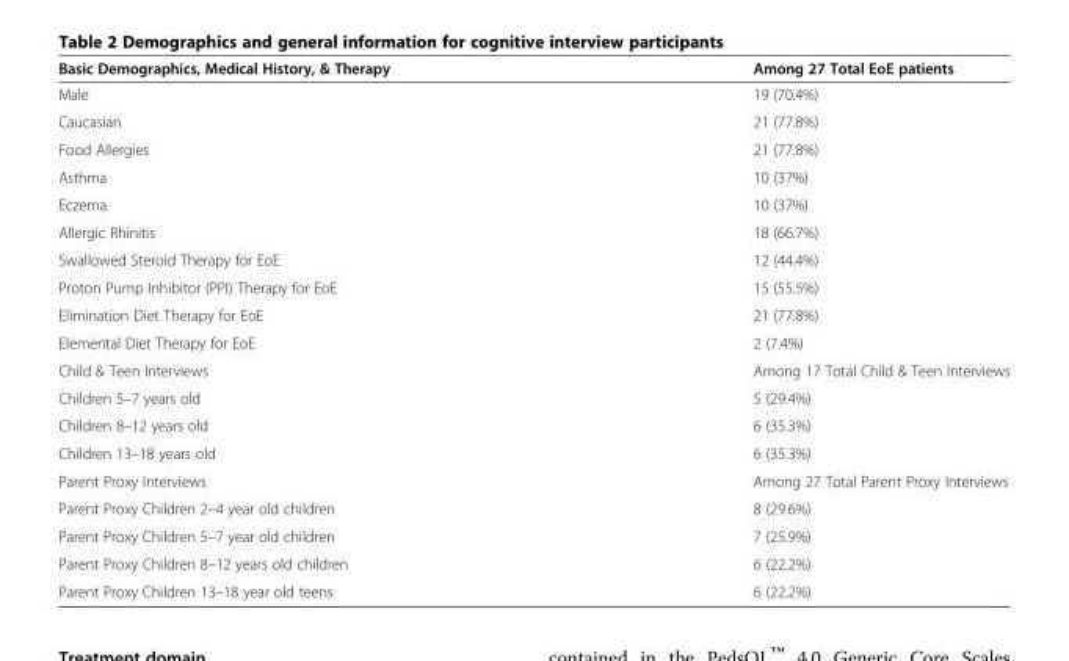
<table><thead><tr><td>Basic Demographics, Medical History, &amp; Therapy</td><td>Among 27 Total EoE patients</td></tr></thead><tbody><tr><td>Male</td><td>19 (70.4%)</td></tr><tr><td>Caucasian</td><td>21 (77.8%)</td></tr><tr><td>Food Allergies</td><td>21 (77.8%)</td></tr><tr><td>Asthma</td><td>10 (37%)</td></tr><tr><td>Eczema</td><td>10 (37%)</td></tr><tr><td>Allergic Rhinitis</td><td>18 (66.7%)</td></tr><tr><td>Swallowed Steroid Therapy for EoE</td><td>12 (44.4%)</td></tr><tr><td>Proton Pump Inhibitor (PPI) Therapy for EoE</td><td>15 (55.5%)</td></tr><tr><td>Elimination Diet Therapy for EoE</td><td>21 (77.8%)</td></tr><tr><td>Elemental Diet Therapy for EoE</td><td>2 (7.4%)</td></tr><tr><td>Child &amp; Teen Interviews</td><td>Among 17 Total Child &amp; Teen Interviews</td></tr><tr><td>Children 5–7 years old</td><td>5 (29.4%)</td></tr><tr><td>Children 8–12 years old</td><td>6 (35.3%)</td></tr><tr><td>Children 13–18 years old</td><td>6 (35.3%)</td></tr><tr><td>Parent Proxy Interviews</td><td>Among 27 Total Parent Proxy Interviews</td></tr><tr><td>Parent Proxy Children 2–4 year old children</td><td>8 (29.6%)</td></tr><tr><td>Parent Proxy Children 5–7 year old children</td><td>7 (25.9%)</td></tr><tr><td>Parent Proxy Children 8–12 years old children</td><td>6 (22.2%)</td></tr><tr><td>Parent Proxy Children 13–18 year old teens</td><td>6 (22.2%)</td></tr></tbody></table>